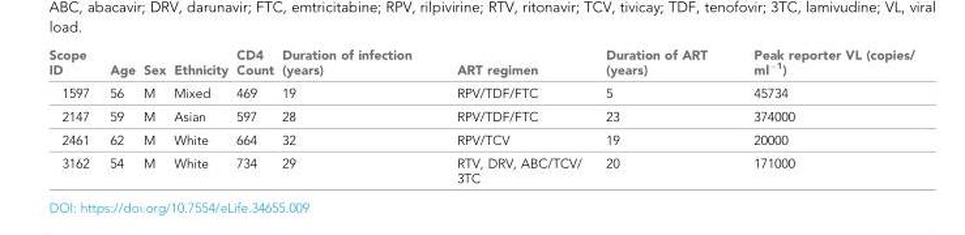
<table><thead><tr><td>Scope ID</td><td>Age</td><td>Sex</td><td>Ethnicity</td><td>CD4 Count</td><td>Duration of infection (years)</td><td>ART regimen</td><td>Duration of ART (years)</td><td>Peak reporter VL (copies/ ml<sup>−1</sup>)</td></tr></thead><tbody><tr><td>1597</td><td>56</td><td>M</td><td>Mixed</td><td>469</td><td>19</td><td>RPV/TDF/FTC</td><td>5</td><td>45734</td></tr><tr><td>2147</td><td>59</td><td>M</td><td>Asian</td><td>597</td><td>28</td><td>RPV/TDF/FTC</td><td>23</td><td>374000</td></tr><tr><td>2461</td><td>62</td><td>M</td><td>White</td><td>664</td><td>32</td><td>RPV/TCV</td><td>19</td><td>20000</td></tr><tr><td>3162</td><td>54</td><td>M</td><td>White</td><td>734</td><td>29</td><td>RTV, DRV, ABC/TCV/ 3TC</td><td>20</td><td>171000</td></tr></tbody></table>